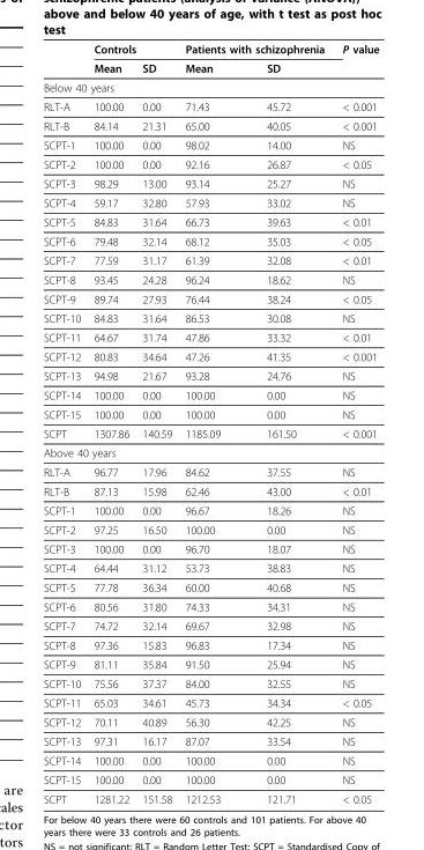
<table><thead><tr><td rowspan="2"></td><td colspan="2">Controls</td><td colspan="2">Patients with schizophrenia</td><td rowspan="2">P value</td></tr><tr><td>Mean</td><td>SD</td><td>Mean</td><td>SD</td></tr></thead><tbody><tr><td colspan="6">Below 40 years</td></tr><tr><td>RLT-A</td><td>100.00</td><td>0.00</td><td>71.43</td><td>45.72</td><td>&lt; 0.001</td></tr><tr><td>RLT-B</td><td>84.14</td><td>21.31</td><td>65.00</td><td>40.05</td><td>&lt; 0.001</td></tr><tr><td>SCPT-1</td><td>100.00</td><td>0.00</td><td>98.02</td><td>14.00</td><td>NS</td></tr><tr><td>SCPT-2</td><td>100.00</td><td>0.00</td><td>92.16</td><td>26.87</td><td>&lt; 0.05</td></tr><tr><td>SCPT-3</td><td>98.29</td><td>13.00</td><td>93.14</td><td>25.27</td><td>NS</td></tr><tr><td>SCPT-4</td><td>59.17</td><td>32.80</td><td>57.93</td><td>33.02</td><td>NS</td></tr><tr><td>SCPT-5</td><td>84.83</td><td>31.64</td><td>66.73</td><td>39.63</td><td>&lt; 0.01</td></tr><tr><td>SCPT-6</td><td>79.48</td><td>32.14</td><td>68.12</td><td>35.03</td><td>&lt; 0.05</td></tr><tr><td>SCPT-7</td><td>77.59</td><td>31.17</td><td>61.39</td><td>32.08</td><td>&lt; 0.01</td></tr><tr><td>SCPT-8</td><td>93.45</td><td>24.28</td><td>96.24</td><td>18.62</td><td>NS</td></tr><tr><td>SCPT-9</td><td>89.74</td><td>27.93</td><td>76.44</td><td>38.24</td><td>&lt; 0.05</td></tr><tr><td>SCPT-10</td><td>84.83</td><td>31.64</td><td>86.53</td><td>30.08</td><td>NS</td></tr><tr><td>SCPT-11</td><td>64.67</td><td>31.74</td><td>47.86</td><td>33.32</td><td>&lt; 0.01</td></tr><tr><td>SCPT-12</td><td>80.83</td><td>34.64</td><td>47.26</td><td>41.35</td><td>&lt; 0.001</td></tr><tr><td>SCPT-13</td><td>94.98</td><td>21.67</td><td>93.28</td><td>24.76</td><td>NS</td></tr><tr><td>SCPT-14</td><td>100.00</td><td>0.00</td><td>100.00</td><td>0.00</td><td>NS</td></tr><tr><td>SCPT-15</td><td>100.00</td><td>0.00</td><td>100.00</td><td>0.00</td><td>NS</td></tr><tr><td>SCPT</td><td>1307.86</td><td>140.59</td><td>1185.09</td><td>161.50</td><td>&lt; 0.001</td></tr><tr><td colspan="6">Above 40 years</td></tr><tr><td>RLT-A</td><td>96.77</td><td>17.96</td><td>84.62</td><td>37.55</td><td>NS</td></tr><tr><td>RLT-B</td><td>87.13</td><td>15.98</td><td>62.46</td><td>43.00</td><td>&lt; 0.01</td></tr><tr><td>SCPT-1</td><td>100.00</td><td>0.00</td><td>96.67</td><td>18.26</td><td>NS</td></tr><tr><td>SCPT-2</td><td>97.25</td><td>16.50</td><td>100.00</td><td>0.00</td><td>NS</td></tr><tr><td>SCPT-3</td><td>100.00</td><td>0.00</td><td>96.70</td><td>18.07</td><td>NS</td></tr><tr><td>SCPT-4</td><td>64.44</td><td>31.12</td><td>53.73</td><td>38.83</td><td>NS</td></tr><tr><td>SCPT-5</td><td>77.78</td><td>36.34</td><td>60.00</td><td>40.68</td><td>NS</td></tr><tr><td>SCPT-6</td><td>80.56</td><td>31.80</td><td>74.33</td><td>34.31</td><td>NS</td></tr><tr><td>SCPT-7</td><td>74.72</td><td>32.14</td><td>69.67</td><td>32.98</td><td>NS</td></tr><tr><td>SCPT-8</td><td>97.36</td><td>15.83</td><td>96.83</td><td>17.34</td><td>NS</td></tr><tr><td>SCPT-9</td><td>81.11</td><td>35.84</td><td>91.50</td><td>25.94</td><td>NS</td></tr><tr><td>SCPT-10</td><td>75.56</td><td>37.37</td><td>84.00</td><td>32.55</td><td>NS</td></tr><tr><td>SCPT-11</td><td>65.03</td><td>34.61</td><td>45.73</td><td>34.34</td><td>&lt; 0.05</td></tr><tr><td>SCPT-12</td><td>70.11</td><td>40.89</td><td>56.30</td><td>42.25</td><td>NS</td></tr><tr><td>SCPT-13</td><td>97.31</td><td>16.17</td><td>87.07</td><td>33.54</td><td>NS</td></tr><tr><td>SCPT-14</td><td>100.00</td><td>0.00</td><td>100.00</td><td>0.00</td><td>NS</td></tr><tr><td>SCPT-15</td><td>100.00</td><td>0.00</td><td>100.00</td><td>0.00</td><td>NS</td></tr><tr><td>SCPT</td><td>1281.22</td><td>151.58</td><td>1212.53</td><td>121.71</td><td>&lt; 0.05</td></tr></tbody></table>